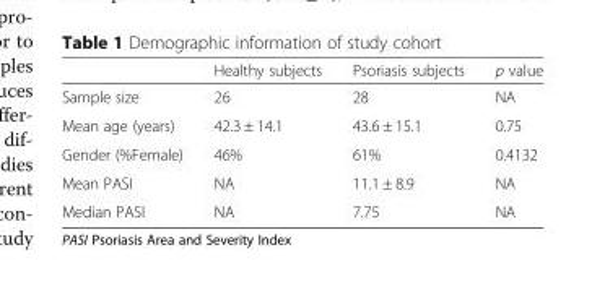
<table><thead><tr><td></td><td>Healthy subjects</td><td>Psoriasis subjects</td><td>p value</td></tr></thead><tbody><tr><td>Sample size</td><td>26</td><td>28</td><td>NA</td></tr><tr><td>Mean age (years)</td><td>42.3 ± 14.1</td><td>43.6 ± 15.1</td><td>0.75</td></tr><tr><td>Gender (%Female)</td><td>46%</td><td>61%</td><td>0.4132</td></tr><tr><td>Mean PASI</td><td>NA</td><td>11.1 ± 8.9</td><td>NA</td></tr><tr><td>Median PASI</td><td>NA</td><td>7.75</td><td>NA</td></tr></tbody></table>